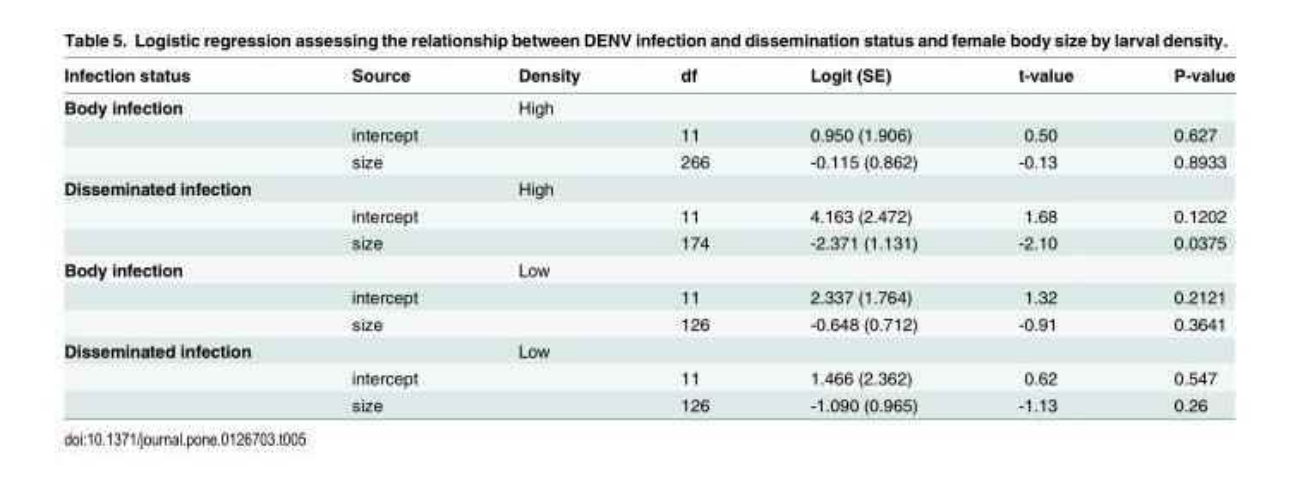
<table><thead><tr><td>Infection status</td><td>Source</td><td>Density</td><td>df</td><td>Logit (SE)</td><td>t-value</td><td>P-value</td></tr></thead><tbody><tr><td rowspan="3">Body infection</td><td></td><td>High</td><td></td><td></td><td></td><td></td></tr><tr><td>intercept</td><td></td><td>11</td><td>0.950 (1.906)</td><td>0.50</td><td>0.627</td></tr><tr><td>size</td><td></td><td>266</td><td>-0.115 (0.862)</td><td>-0.13</td><td>0.8933</td></tr><tr><td rowspan="3">Disseminated infection</td><td></td><td>High</td><td></td><td></td><td></td><td></td></tr><tr><td>intercept</td><td></td><td>11</td><td>4.163 (2.472)</td><td>1.68</td><td>0.1202</td></tr><tr><td>size</td><td></td><td>174</td><td>-2.371 (1.131)</td><td>-2.10</td><td>0.0375</td></tr><tr><td rowspan="3">Body infection</td><td></td><td>Low</td><td></td><td></td><td></td><td></td></tr><tr><td>intercept</td><td></td><td>11</td><td>2.337 (1.764)</td><td>1.32</td><td>0.2121</td></tr><tr><td>size</td><td></td><td>126</td><td>-0.648 (0.712)</td><td>-0.91</td><td>0.3641</td></tr><tr><td rowspan="3">Disseminated infection</td><td></td><td>Low</td><td></td><td></td><td></td><td></td></tr><tr><td>intercept</td><td></td><td>11</td><td>1.466 (2.362)</td><td>0.62</td><td>0.547</td></tr><tr><td>size</td><td></td><td>126</td><td>-1.090 (0.965)</td><td>-1.13</td><td>0.26</td></tr></tbody></table>